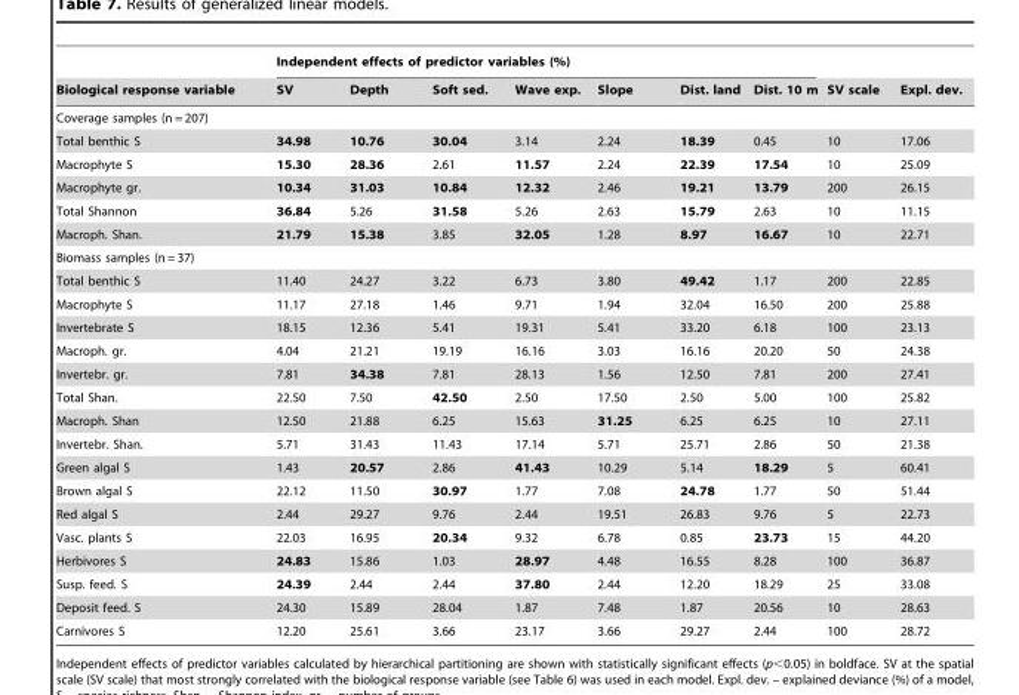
<table><thead><tr><td rowspan="2">Biological response variable</td><td colspan="7">Independent effects of predictor variables (%)</td><td rowspan="2">SV scale</td><td rowspan="2">Expl. dev.</td></tr><tr><td>SV</td><td>Depth</td><td>Soft sed.</td><td>Wave exp.</td><td>Slope</td><td>Dist. land</td><td>Dist. 10 m</td></tr></thead><tbody><tr><td colspan="10">Coverage samples (n = 207)</td></tr><tr><td>Total benthic S</td><td>34.98</td><td>10.76</td><td>30.04</td><td>3.14</td><td>2.24</td><td>18.39</td><td>0.45</td><td>10</td><td>17.06</td></tr><tr><td>Macrophyte S</td><td>15.30</td><td>28.36</td><td>2.61</td><td>11.57</td><td>2.24</td><td>22.39</td><td>17.54</td><td>10</td><td>25.09</td></tr><tr><td>Macrophyte gr.</td><td>10.34</td><td>31.03</td><td>10.84</td><td>12.32</td><td>2.46</td><td>19.21</td><td>13.79</td><td>200</td><td>26.15</td></tr><tr><td>Total Shannon</td><td>36.84</td><td>5.26</td><td>31.58</td><td>5.26</td><td>2.63</td><td>15.79</td><td>2.63</td><td>10</td><td>11.15</td></tr><tr><td>Macroph. Shan.</td><td>21.79</td><td>15.38</td><td>3.85</td><td>32.05</td><td>1.28</td><td>8.97</td><td>16.67</td><td>10</td><td>22.71</td></tr><tr><td colspan="10">Biomass samples (n = 37)</td></tr><tr><td>Total benthic S</td><td>11.40</td><td>24.27</td><td>3.22</td><td>6.73</td><td>3.80</td><td>49.42</td><td>1.17</td><td>200</td><td>22.85</td></tr><tr><td>Macrophyte S</td><td>11.17</td><td>27.18</td><td>1.46</td><td>9.71</td><td>1.94</td><td>32.04</td><td>16.50</td><td>200</td><td>25.88</td></tr><tr><td>Invertebrate S</td><td>18.15</td><td>12.36</td><td>5.41</td><td>19.31</td><td>5.41</td><td>33.20</td><td>6.18</td><td>100</td><td>23.13</td></tr><tr><td>Macroph. gr.</td><td>4.04</td><td>21.21</td><td>19.19</td><td>16.16</td><td>3.03</td><td>16.16</td><td>20.20</td><td>50</td><td>24.38</td></tr><tr><td>Invertebr. gr.</td><td>7.81</td><td>34.38</td><td>7.81</td><td>28.13</td><td>1.56</td><td>12.50</td><td>7.81</td><td>200</td><td>27.41</td></tr><tr><td>Total Shan.</td><td>22.50</td><td>7.50</td><td>42.50</td><td>2.50</td><td>17.50</td><td>2.50</td><td>5.00</td><td>100</td><td>25.82</td></tr><tr><td>Macroph. Shan</td><td>12.50</td><td>21.88</td><td>6.25</td><td>15.63</td><td>31.25</td><td>6.25</td><td>6.25</td><td>10</td><td>27.11</td></tr><tr><td>Invertebr. Shan.</td><td>5.71</td><td>31.43</td><td>11.43</td><td>17.14</td><td>5.71</td><td>25.71</td><td>2.86</td><td>50</td><td>21.38</td></tr><tr><td>Green algal S</td><td>1.43</td><td>20.57</td><td>2.86</td><td>41.43</td><td>10.29</td><td>5.14</td><td>18.29</td><td>5</td><td>60.41</td></tr><tr><td>Brown algal S</td><td>22.12</td><td>11.50</td><td>30.97</td><td>1.77</td><td>7.08</td><td>24.78</td><td>1.77</td><td>50</td><td>51.44</td></tr><tr><td>Red algal S</td><td>2.44</td><td>29.27</td><td>9.76</td><td>2.44</td><td>19.51</td><td>26.83</td><td>9.76</td><td>5</td><td>22.73</td></tr><tr><td>Vasc. plants S</td><td>22.03</td><td>16.95</td><td>20.34</td><td>9.32</td><td>6.78</td><td>0.85</td><td>23.73</td><td>15</td><td>44.20</td></tr><tr><td>Herbivores S</td><td>24.83</td><td>15.86</td><td>1.03</td><td>28.97</td><td>4.48</td><td>16.55</td><td>8.28</td><td>100</td><td>36.87</td></tr><tr><td>Susp. feed. S</td><td>24.39</td><td>2.44</td><td>2.44</td><td>37.80</td><td>2.44</td><td>12.20</td><td>18.29</td><td>25</td><td>33.08</td></tr><tr><td>Deposit feed. S</td><td>24.30</td><td>15.89</td><td>28.04</td><td>1.87</td><td>7.48</td><td>1.87</td><td>20.56</td><td>10</td><td>28.63</td></tr><tr><td>Carnivores S</td><td>12.20</td><td>25.61</td><td>3.66</td><td>23.17</td><td>3.66</td><td>29.27</td><td>2.44</td><td>100</td><td>28.72</td></tr></tbody></table>